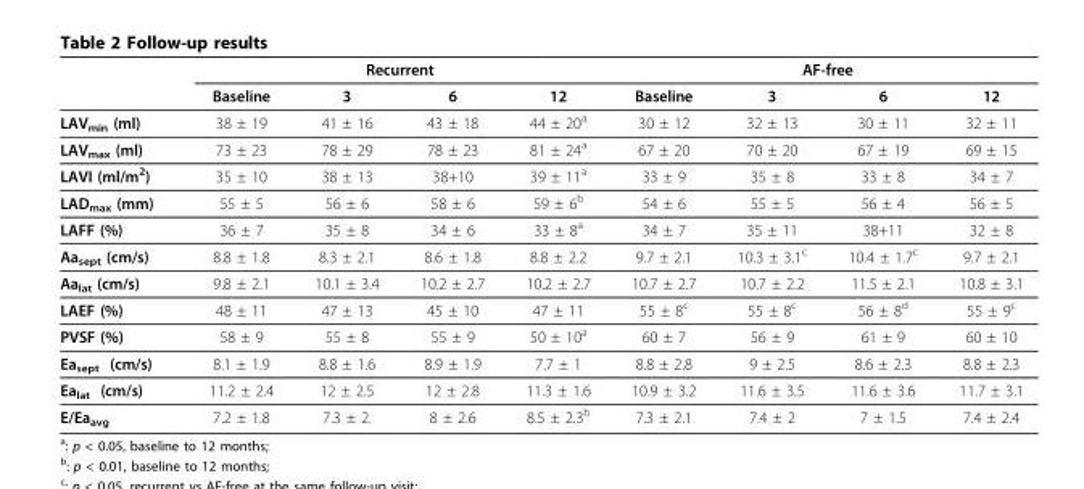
<table><thead><tr><td rowspan="2"></td><td colspan="4">Recurrent</td><td colspan="4">AF-free</td></tr><tr><td>Baseline</td><td>3</td><td>6</td><td>12</td><td>Baseline</td><td>3</td><td>6</td><td>12</td></tr></thead><tbody><tr><td>LAV<sub>min</sub> (ml)</td><td>38 ± 19</td><td>41 ± 16</td><td>43 ± 18</td><td>44 ± 20<sup>a</sup></td><td>30 ± 12</td><td>32 ± 13</td><td>30 ± 11</td><td>32 ± 11</td></tr><tr><td>LAV<sub>max</sub> (ml)</td><td>73 ± 23</td><td>78 ± 29</td><td>78 ± 23</td><td>81 ± 24<sup>a</sup></td><td>67 ± 20</td><td>70 ± 20</td><td>67 ± 19</td><td>69 ± 15</td></tr><tr><td>LAVI (ml/m<sup>2</sup>)</td><td>35 ± 10</td><td>38 ± 13</td><td>38+10</td><td>39 ± 11<sup>a</sup></td><td>33 ± 9</td><td>35 ± 8</td><td>33 ± 8</td><td>34 ± 7</td></tr><tr><td>LAD<sub>max</sub> (mm)</td><td>55 ± 5</td><td>56 ± 6</td><td>58 ± 6</td><td>59 ± 6<sup>b</sup></td><td>54 ± 6</td><td>55 ± 5</td><td>56 ± 4</td><td>56 ± 5</td></tr><tr><td>LAFF (%)</td><td>36 ± 7</td><td>35 ± 8</td><td>34 ± 6</td><td>33 ± 8<sup>a</sup></td><td>34 ± 7</td><td>35 ± 11</td><td>38+11</td><td>32 ± 8</td></tr><tr><td>Aa<sub>sept</sub> (cm/s)</td><td>8.8 ± 1.8</td><td>8.3 ± 2.1</td><td>8.6 ± 1.8</td><td>8.8 ± 2.2</td><td>9.7 ± 2.1</td><td>10.3 ± 3.1<sup>c</sup></td><td>10.4 ± 1.7<sup>c</sup></td><td>9.7 ± 2.1</td></tr><tr><td>Aa<sub>lat</sub> (cm/s)</td><td>9.8 ± 2.1</td><td>10.1 ± 3.4</td><td>10.2 ± 2.7</td><td>10.2 ± 2.7</td><td>10.7 ± 2.7</td><td>10.7 ± 2.2</td><td>11.5 ± 2.1</td><td>10.8 ± 3.1</td></tr><tr><td>LAEF (%)</td><td>48 ± 11</td><td>47 ± 13</td><td>45 ± 10</td><td>47 ± 11</td><td>55 ± 8<sup>c</sup></td><td>55 ± 8<sup>c</sup></td><td>56 ± 8<sup>d</sup></td><td>55 ± 9<sup>c</sup></td></tr><tr><td>PVSF (%)</td><td>58 ± 9</td><td>55 ± 8</td><td>55 ± 9</td><td>50 ± 10<sup>a</sup></td><td>60 ± 7</td><td>56 ± 9</td><td>61 ± 9</td><td>60 ± 10</td></tr><tr><td>Ea<sub>sept</sub> (cm/s)</td><td>8.1 ± 1.9</td><td>8.8 ± 1.6</td><td>8.9 ± 1.9</td><td>7.7 ± 1</td><td>8.8 ± 2.8</td><td>9 ± 2.5</td><td>8.6 ± 2.3</td><td>8.8 ± 2.3</td></tr><tr><td>Ea<sub>lat</sub> (cm/s)</td><td>11.2 ± 2.4</td><td>12 ± 2.5</td><td>12 ± 2.8</td><td>11.3 ± 1.6</td><td>10.9 ± 3.2</td><td>11.6 ± 3.5</td><td>11.6 ± 3.6</td><td>11.7 ± 3.1</td></tr><tr><td>E/Ea<sub>avg</sub></td><td>7.2 ± 1.8</td><td>7.3 ± 2.</td><td>8 ± 2.6</td><td>8.5 ± 2.3<sup>b</sup></td><td>7.3 ± 2.1</td><td>7.4 ± 2</td><td>7 ± 1.5</td><td>7.4 ± 2.4</td></tr></tbody></table>